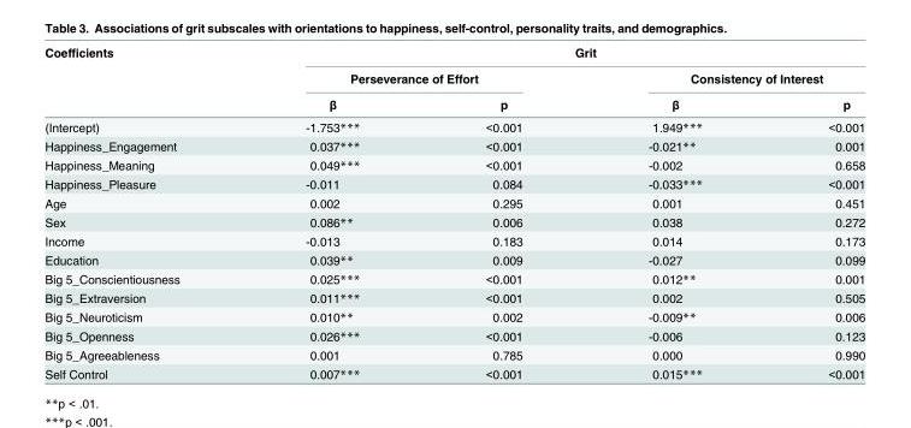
<table><thead><tr><td rowspan="3">Coefficients</td><td colspan="4">Grit</td></tr><tr><td colspan="2">Perseverance of Effort</td><td colspan="2">Consistency of Interest</td></tr><tr><td>β</td><td>p</td><td>β</td><td>p</td></tr></thead><tbody><tr><td>(Intercept)</td><td>-1.753***</td><td>&lt;0.001</td><td>1.949***</td><td>&lt;0.001</td></tr><tr><td>Happiness_Engagement</td><td>0.037***</td><td>&lt;0.001</td><td>-0.021**</td><td>0.001</td></tr><tr><td>Happiness_Meaning</td><td>0.049***</td><td>&lt;0.001</td><td>-0.002</td><td>0.658</td></tr><tr><td>Happiness_Pleasure</td><td>-0.011</td><td>0.084</td><td>-0.033***</td><td>&lt;0.001</td></tr><tr><td>Age</td><td>0.002</td><td>0.295</td><td>0.001</td><td>0.451</td></tr><tr><td>Sex</td><td>0.086**</td><td>0.006</td><td>0.038</td><td>0.272</td></tr><tr><td>Income</td><td>-0.013</td><td>0.183</td><td>0.014</td><td>0.173</td></tr><tr><td>Education</td><td>0.039**</td><td>0.009</td><td>-0.027</td><td>0.099</td></tr><tr><td>Big 5_Conscientiousness</td><td>0.025***</td><td>&lt;0.001</td><td>0.012**</td><td>0.001</td></tr><tr><td>Big 5_Extraversion</td><td>0.011***</td><td>&lt;0.001</td><td>0.002</td><td>0.505</td></tr><tr><td>Big 5_Neuroticism</td><td>0.010**</td><td>0.002</td><td>-0.009**</td><td>0.006</td></tr><tr><td>Big 5_Openness</td><td>0.026***</td><td>&lt;0.001</td><td>-0.006</td><td>0.123</td></tr><tr><td>Big 5_Agreeableness</td><td>0.001</td><td>0.785</td><td>0.000</td><td>0.990</td></tr><tr><td>Self Control</td><td>0.007***</td><td>&lt;0.001</td><td>0.015***</td><td>&lt;0.001</td></tr></tbody></table>